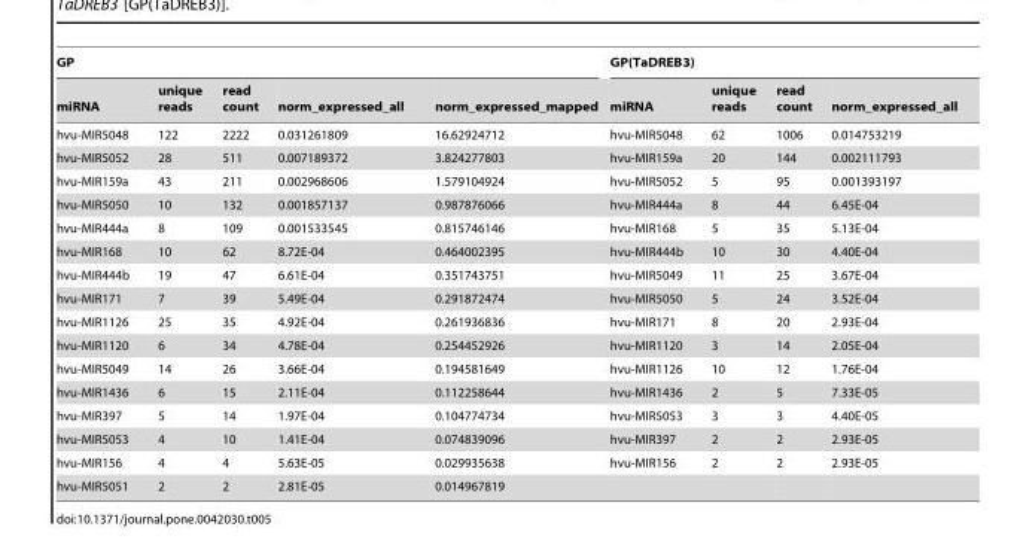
<table><thead><tr><td colspan="5">GP</td><td colspan="4">GP(TaDREB3)</td></tr><tr><td>miRNA</td><td>unique reads</td><td>read count</td><td>norm_expressed_all</td><td>norm_expressed_mapped</td><td>miRNA</td><td>unique reads</td><td>read count</td><td>norm_expressed_all</td></tr></thead><tbody><tr><td>hvu-MIR5048</td><td>122</td><td>2222</td><td>0.031261809</td><td>16.62924712</td><td>hvu-MIR5048</td><td>62</td><td>1006</td><td>0.014753219</td></tr><tr><td>hvu-MIR5052</td><td>28</td><td>511</td><td>0.007189372</td><td>3.824277803</td><td>hvu-MIR159a</td><td>20</td><td>144</td><td>0.002111793</td></tr><tr><td>hvu-MIR159a</td><td>43</td><td>211</td><td>0.002968606</td><td>1.579104924</td><td>hvu-MIR5052</td><td>5</td><td>95</td><td>0.001393197</td></tr><tr><td>hvu-MIR5050</td><td>10</td><td>132</td><td>0.001857137</td><td>0.987876066</td><td>hvu-MIR444a</td><td>8</td><td>44</td><td>6.45E-04</td></tr><tr><td>hvu-MIR444a</td><td>8</td><td>109</td><td>0.001533545</td><td>0.815746146</td><td>hvu-MIR168</td><td>5</td><td>35</td><td>5.13E-04</td></tr><tr><td>hvu-MIR168</td><td>10</td><td>62</td><td>8.72E-04</td><td>0.464002395</td><td>hvu-MIR444b</td><td>10</td><td>30</td><td>4.40E-04</td></tr><tr><td>hvu-MIR444b</td><td>19</td><td>47</td><td>6.61E-04</td><td>0.351743751</td><td>hvu-MIR5049</td><td>11</td><td>25</td><td>3.67E-04</td></tr><tr><td>hvu-MIR171</td><td>7</td><td>39</td><td>5.49E-04</td><td>0.291872474</td><td>hvu-MIR5050</td><td>5</td><td>24</td><td>3.52E-04</td></tr><tr><td>hvu-MIR1126</td><td>25</td><td>35</td><td>4.92E-04</td><td>0.261936836</td><td>hvu-MIR171</td><td>8</td><td>20</td><td>2.93E-04</td></tr><tr><td>hvu-MIR1120</td><td>6</td><td>34</td><td>4.78E-04</td><td>0.254452926</td><td>hvu-MIR1120</td><td>3</td><td>14</td><td>2.05E-04</td></tr><tr><td>hvu-MIR5049</td><td>14</td><td>26</td><td>3.66E-04</td><td>0.194581649</td><td>hvu-MIR1126</td><td>10</td><td>12</td><td>1.76E-04</td></tr><tr><td>hvu-MIR1436</td><td>6</td><td>15</td><td>2.11E-04</td><td>0.112258644</td><td>hvu-MIR1436</td><td>2</td><td>5</td><td>7.33E-05</td></tr><tr><td>hvu-MIR397</td><td>5</td><td>14</td><td>1.97E-04</td><td>0.104774734</td><td>hvu-MIR5053</td><td>3</td><td>3</td><td>4.40E-05</td></tr><tr><td>hvu-MIR5053</td><td>4</td><td>10</td><td>1.41E-04</td><td>0.074839096</td><td>hvu-MIR397</td><td>2</td><td>2</td><td>2.93E-05</td></tr><tr><td>hvu-MIR156</td><td>4</td><td>4</td><td>5.63E-05</td><td>0.029935638</td><td>hvu-MIR156</td><td>2</td><td>2</td><td>2.93E-05</td></tr><tr><td>hvu-MIR5051</td><td>2</td><td>2</td><td>2.81E-05</td><td>0.014967819</td><td></td><td></td><td></td><td></td></tr></tbody></table>